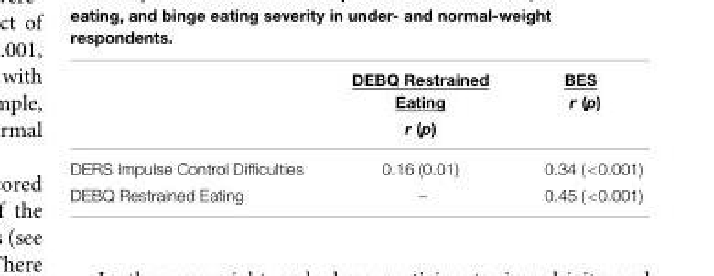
<table><thead><tr><td rowspan="3"></td><td rowspan="3">DEBQ Restrained Eating r (p)</td><td rowspan="3">BES r (p)</td></tr><tr></tr><tr></tr></thead><tbody><tr><td>DERS Impulse Control Difficulties</td><td>0.16 (0.01)</td><td>0.34 (&lt;0.001)</td></tr><tr><td>DEBQ Restrained Eating</td><td>–</td><td>0.45 (&lt;0.001)</td></tr></tbody></table>